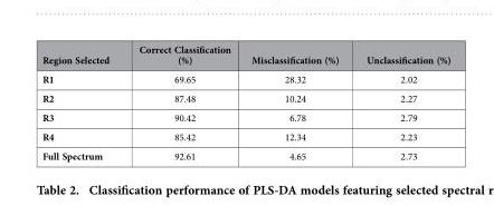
<table><thead><tr><td>Region Selected</td><td>Correct Classification (%)</td><td>Misclassification (%)</td><td>Unclassification (%)</td></tr></thead><tbody><tr><td>R1</td><td>69.65</td><td>28.32</td><td>2.02</td></tr><tr><td>R2</td><td>87.48</td><td>10.24</td><td>2.27</td></tr><tr><td>R3</td><td>90.42</td><td>6.78</td><td>2.79</td></tr><tr><td>R4</td><td>85.42</td><td>12.34</td><td>2.23</td></tr><tr><td>Full Spectrum</td><td>92.61</td><td>4.65</td><td>2.73</td></tr></tbody></table>